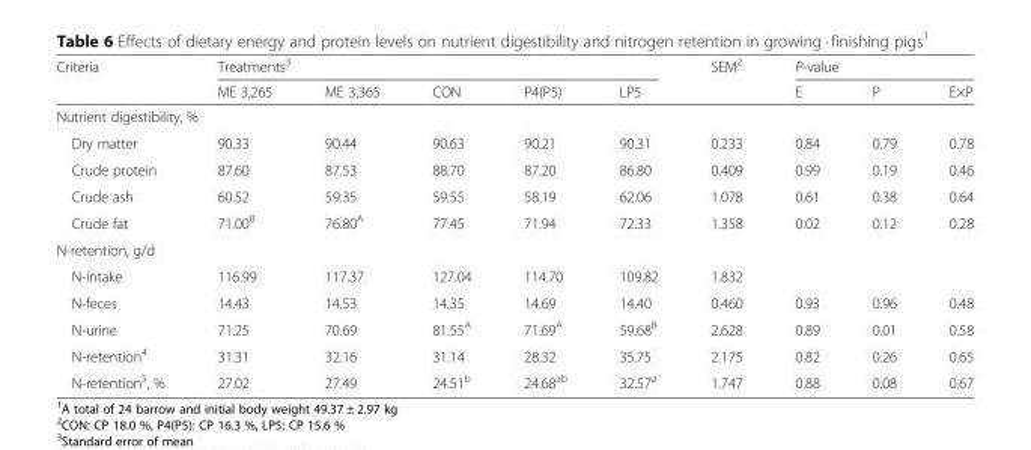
<table><thead><tr><td rowspan="2">Criteria</td><td colspan="5">Treatments<sup>3</sup></td><td rowspan="2">SEM<sup>2</sup></td><td colspan="3">P-value</td></tr><tr><td>ME 3,265</td><td>ME 3,365</td><td>CON</td><td>P4(P5)</td><td>LP5</td><td>E</td><td>P</td><td>E×P</td></tr></thead><tbody><tr><td colspan="10">Nutrient digestibility, %</td></tr><tr><td>Dry matter</td><td>90.33</td><td>90.44</td><td>90.63</td><td>90.21</td><td>90.31</td><td>0.233</td><td>0.84</td><td>0.79</td><td>0.78</td></tr><tr><td>Crude protein</td><td>87.60</td><td>87.53</td><td>88.70</td><td>87.20</td><td>86.80</td><td>0.409</td><td>0.99</td><td>0.19</td><td>0.46</td></tr><tr><td>Crude ash</td><td>60.52</td><td>59.35</td><td>59.55</td><td>58.19</td><td>62.06</td><td>1.078</td><td>0.61</td><td>0.38</td><td>0.64</td></tr><tr><td>Crude fat</td><td>71.00<sup>B</sup></td><td>76.80<sup>A</sup></td><td>77.45</td><td>71.94</td><td>72.33</td><td>1.358</td><td>0.02</td><td>0.12</td><td>0.28</td></tr><tr><td colspan="10">N-retention, g/d</td></tr><tr><td>N-intake</td><td>116.99</td><td>117.37</td><td>127.04</td><td>114.70</td><td>109.82</td><td>1.832</td><td></td><td></td><td></td></tr><tr><td>N-feces</td><td>14.43</td><td>14.53</td><td>14.35</td><td>14.69</td><td>14.40</td><td>0.460</td><td>0.93</td><td>0.96</td><td>0.48</td></tr><tr><td>N-urine</td><td>71.25</td><td>70.69</td><td>81.55<sup>A</sup></td><td>71.69<sup>A</sup></td><td>59.68<sup>B</sup></td><td>2.628</td><td>0.89</td><td>0.01</td><td>0.58</td></tr><tr><td>N-retention<sup>4</sup></td><td>31.31</td><td>32.16</td><td>31.14</td><td>28.32</td><td>35.75</td><td>2.175</td><td>0.82</td><td>0.26</td><td>0.65</td></tr><tr><td>N-retention<sup>5</sup>, %</td><td>27.02</td><td>27.49</td><td>24.51<sup>b</sup></td><td>24.68<sup>ab</sup></td><td>32.57<sup>a</sup></td><td>1.747</td><td>0.88</td><td>0.08</td><td>0.67</td></tr></tbody></table>